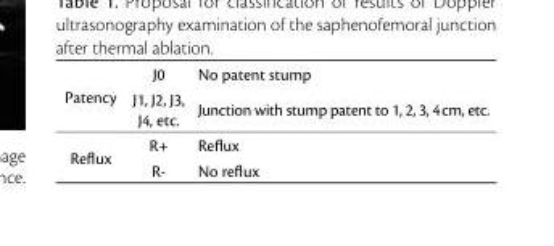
<table><tbody><tr><td rowspan="2">Patency</td><td>J0</td><td>No patent stump</td></tr><tr><td>J1, J2, J3, J4, etc.</td><td>Junction with stump patent to 1, 2, 3, 4 cm, etc.</td></tr><tr><td rowspan="2">Reflux</td><td>R+</td><td>Reflux</td></tr><tr><td>R-</td><td>No reflux</td></tr></tbody></table>